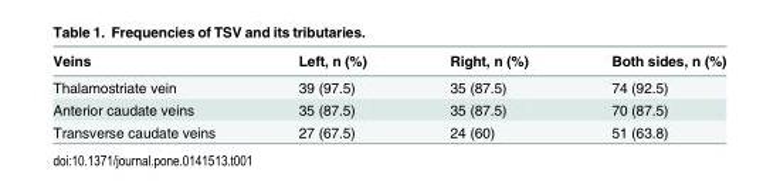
<table><thead><tr><td>Veins</td><td>Left, n (%)</td><td>Right, n (%)</td><td>Both sides, n (%)</td></tr></thead><tbody><tr><td>Thalamostriate vein</td><td>39 (97.5)</td><td>35 (87.5)</td><td>74 (92.5)</td></tr><tr><td>Anterior caudate veins</td><td>35 (87.5)</td><td>35 (87.5)</td><td>70 (87.5)</td></tr><tr><td>Transverse caudate veins</td><td>27 (67.5)</td><td>24 (60)</td><td>51 (63.8)</td></tr></tbody></table>